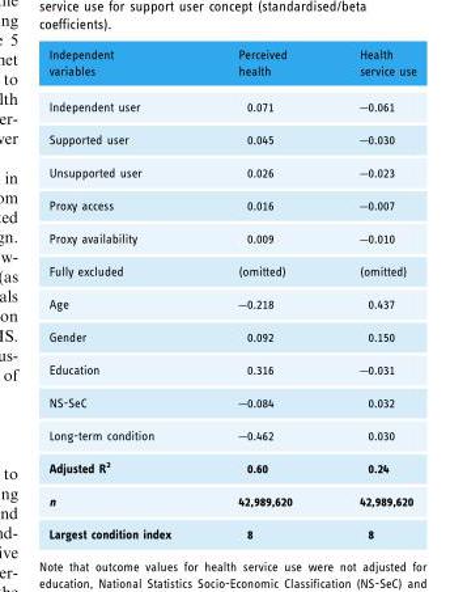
<table><thead><tr><td>Independent variables</td><td>Perceived health</td><td>Health service use</td></tr></thead><tbody><tr><td>Independent user</td><td>0.071</td><td>–0.061</td></tr><tr><td>Supported user</td><td>0.045</td><td>–0.030</td></tr><tr><td>Unsupported user</td><td>0.026</td><td>–0.023</td></tr><tr><td>Proxy access</td><td>0.016</td><td>–0.007</td></tr><tr><td>Proxy availability</td><td>0.009</td><td>–0.010</td></tr><tr><td>Fully excluded</td><td>(omitted)</td><td>(omitted)</td></tr><tr><td>Age</td><td>–0.218</td><td>0.437</td></tr><tr><td>Gender</td><td>0.092</td><td>0.150</td></tr><tr><td>Education</td><td>0.316</td><td>–0.031</td></tr><tr><td>NS-SeC</td><td>–0.084</td><td>0.032</td></tr><tr><td>Long-term condition</td><td>–0.462</td><td>0.030</td></tr><tr><td>Adjusted R<sup>2</sup></td><td>0.60</td><td>0.24</td></tr><tr><td>n</td><td>42,989,620</td><td>42,989,620</td></tr><tr><td>Largest condition index</td><td>8</td><td>8</td></tr></tbody></table>